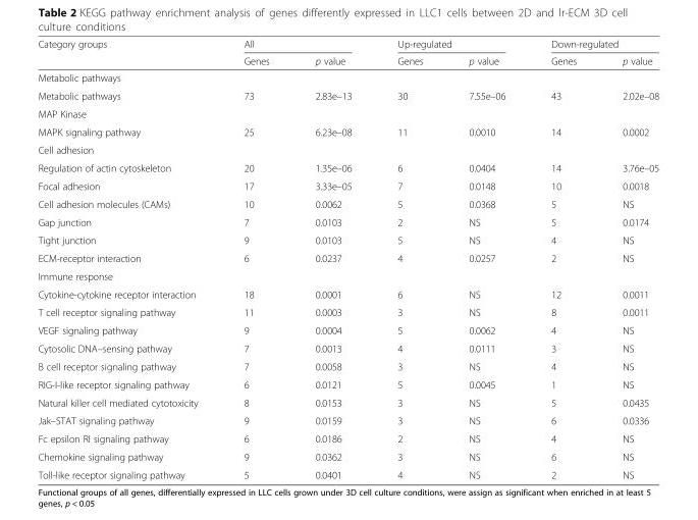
<table><thead><tr><td rowspan="2">Category groups</td><td colspan="2">All</td><td colspan="2">Up-regulated</td><td colspan="2">Down-regulated</td></tr><tr><td>Genes</td><td>p value</td><td>Genes</td><td>p value</td><td>Genes</td><td>p value</td></tr></thead><tbody><tr><td colspan="7">Metabolic pathways</td></tr><tr><td>Metabolic pathways</td><td>73</td><td>2.83e–13</td><td>30</td><td>7.55e–06</td><td>43</td><td>2.02e–08</td></tr><tr><td colspan="7">MAP Kinase</td></tr><tr><td>MAPK signaling pathway</td><td>25</td><td>6.23e–08</td><td>11</td><td>0.0010</td><td>14</td><td>0.0002</td></tr><tr><td colspan="7">Cell adhesion</td></tr><tr><td>Regulation of actin cytoskeleton</td><td>20</td><td>1.35e–06</td><td>6</td><td>0.0404</td><td>14</td><td>3.76e–05</td></tr><tr><td>Focal adhesion</td><td>17</td><td>3.33e–05</td><td>7</td><td>0.0148</td><td>10</td><td>0.0018</td></tr><tr><td>Cell adhesion molecules (CAMs)</td><td>10</td><td>0.0062</td><td>5</td><td>0.0368</td><td>5</td><td>NS</td></tr><tr><td>Gap junction</td><td>7</td><td>0.0103</td><td>2</td><td>NS</td><td>5</td><td>0.0174</td></tr><tr><td>Tight junction</td><td>9</td><td>0.0103</td><td>5</td><td>NS</td><td>4</td><td>NS</td></tr><tr><td>ECM-receptor interaction</td><td>6</td><td>0.0237</td><td>4</td><td>0.0257</td><td>2</td><td>NS</td></tr><tr><td colspan="7">Immune response</td></tr><tr><td>Cytokine-cytokine receptor interaction</td><td>18</td><td>0.0001</td><td>6</td><td>NS</td><td>12</td><td>0.0011</td></tr><tr><td>T cell receptor signaling pathway</td><td>11</td><td>0.0003</td><td>3</td><td>NS</td><td>8</td><td>0.0011</td></tr><tr><td>VEGF signaling pathway</td><td>9</td><td>0.0004</td><td>5</td><td>0.0062</td><td>4</td><td>NS</td></tr><tr><td>Cytosolic DNA–sensing pathway</td><td>7</td><td>0.0013</td><td>4</td><td>0.0111</td><td>3</td><td>NS</td></tr><tr><td>B cell receptor signaling pathway</td><td>7</td><td>0.0058</td><td>3</td><td>NS</td><td>4</td><td>NS</td></tr><tr><td>RIG-I-like receptor signaling pathway</td><td>6</td><td>0.0121</td><td>5</td><td>0.0045</td><td>1</td><td>NS</td></tr><tr><td>Natural killer cell mediated cytotoxicity</td><td>8</td><td>0.0153</td><td>3</td><td>NS</td><td>5</td><td>0.0435</td></tr><tr><td>Jak–STAT signaling pathway</td><td>9</td><td>0.0159</td><td>3</td><td>NS</td><td>6</td><td>0.0336</td></tr><tr><td>Fc epsilon RI signaling pathway</td><td>6</td><td>0.0186</td><td>2</td><td>NS</td><td>4</td><td>NS</td></tr><tr><td>Chemokine signaling pathway</td><td>9</td><td>0.0362</td><td>3</td><td>NS</td><td>6</td><td>NS</td></tr><tr><td>Toll-like receptor signaling pathway</td><td>5</td><td>0.0401</td><td>4</td><td>NS</td><td>2</td><td>NS</td></tr></tbody></table>